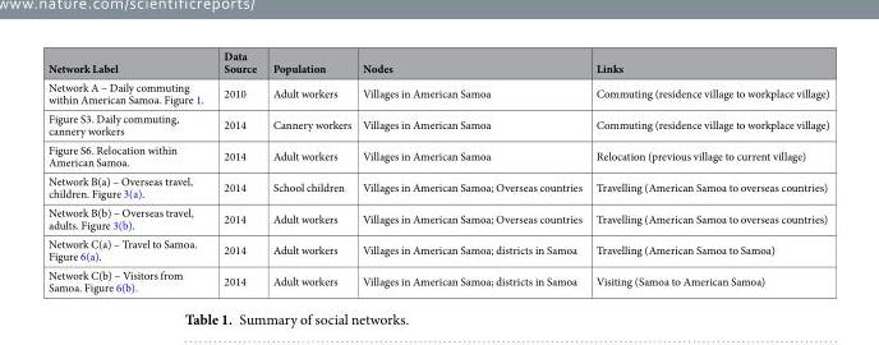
<table><thead><tr><td>Network Label</td><td>Data Source</td><td>Population</td><td>Nodes</td><td>Links</td></tr></thead><tbody><tr><td>Network A – Daily commuting within American Samoa. Figure 1.</td><td>2010</td><td>Adult workers</td><td>Villages in American Samoa</td><td>Commuting (residence village to workplace village)</td></tr><tr><td>Figure S3. Daily commuting, cannery workers</td><td>2014</td><td>Cannery workers</td><td>Villages in American Samoa</td><td>Commuting (residence village to workplace village)</td></tr><tr><td>Figure S6. Relocation within American Samoa.</td><td>2014</td><td>Adult workers</td><td>Villages in American Samoa</td><td>Relocation (previous village to current village)</td></tr><tr><td>Network B(a) – Overseas travel, children. Figure 3(a).</td><td>2014</td><td>School children</td><td>Villages in American Samoa; Overseas countries</td><td>Travelling (American Samoa to overseas countries)</td></tr><tr><td>Network B(b) – Overseas travel, adults. Figure 3(b).</td><td>2014</td><td>Adult workers</td><td>Villages in American Samoa; Overseas countries</td><td>Travelling (American Samoa to overseas countries)</td></tr><tr><td>Network C(a) – Travel to Samoa. Figure 6(a).</td><td>2014</td><td>Adult workers</td><td>Villages in American Samoa; districts in Samoa</td><td>Travelling (American Samoa to Samoa)</td></tr><tr><td>Network C(b) – Visitors from Samoa. Figure 6(b).</td><td>2014</td><td>Adult workers</td><td>Villages in American Samoa; districts in Samoa</td><td>Visiting (Samoa to American Samoa)</td></tr></tbody></table>